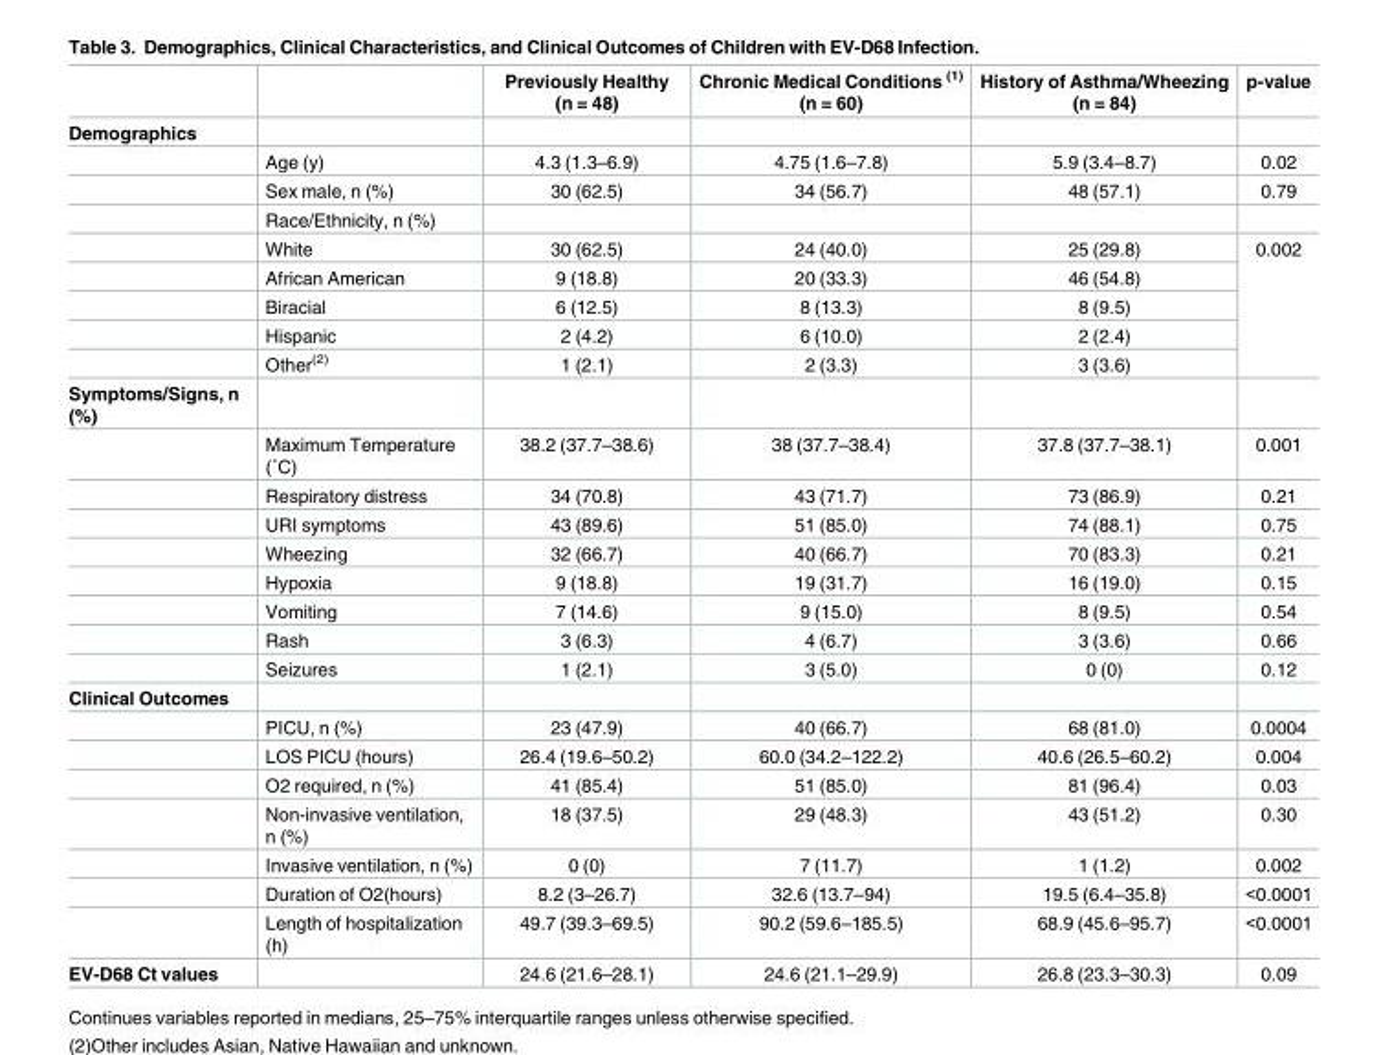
<table><thead><tr><td></td><td></td><td>Previously Healthy (n = 48)</td><td>Chronic Medical Conditions <sup>(1)</sup> (n = 60)</td><td>History of Asthma/Wheezing (n = 84)</td><td>p-value</td></tr></thead><tbody><tr><td colspan="6">Demographics</td></tr><tr><td></td><td>Age (y)</td><td>4.3 (1.3–6.9)</td><td>4.75 (1.6–7.8)</td><td>5.9 (3.4–8.7)</td><td>0.02</td></tr><tr><td></td><td>Sex male, n (%)</td><td>30 (62.5)</td><td>34 (56.7)</td><td>48 (57.1)</td><td>0.79</td></tr><tr><td></td><td>Race/Ethnicity, n (%)</td><td></td><td></td><td></td><td></td></tr><tr><td></td><td>White</td><td>30 (62.5)</td><td>24 (40.0)</td><td>25 (29.8)</td><td rowspan="5">0.002</td></tr><tr><td></td><td>African American</td><td>9 (18.8)</td><td>20 (33.3)</td><td>46 (54.8)</td></tr><tr><td></td><td>Biracial</td><td>6 (12.5)</td><td>8 (13.3)</td><td>8 (9.5)</td></tr><tr><td></td><td>Hispanic</td><td>2 (4.2)</td><td>6 (10.0)</td><td>2 (2.4)</td></tr><tr><td></td><td>Other<sup>(2)</sup></td><td>1 (2.1)</td><td>2 (3.3)</td><td>3 (3.6)</td></tr><tr><td colspan="6">Symptoms/Signs, n (%)</td></tr><tr><td></td><td>Maximum Temperature (˚C)</td><td>38.2 (37.7–38.6)</td><td>38 (37.7–38.4)</td><td>37.8 (37.7–38.1)</td><td>0.001</td></tr><tr><td></td><td>Respiratory distress</td><td>34 (70.8)</td><td>43 (71.7)</td><td>73 (86.9)</td><td>0.21</td></tr><tr><td></td><td>URI symptoms</td><td>43 (89.6)</td><td>51 (85.0)</td><td>74 (88.1)</td><td>0.75</td></tr><tr><td></td><td>Wheezing</td><td>32 (66.7)</td><td>40 (66.7)</td><td>70 (83.3)</td><td>0.21</td></tr><tr><td></td><td>Hypoxia</td><td>9 (18.8)</td><td>19 (31.7)</td><td>16 (19.0)</td><td>0.15</td></tr><tr><td></td><td>Vomiting</td><td>7 (14.6)</td><td>9 (15.0)</td><td>8 (9.5)</td><td>0.54</td></tr><tr><td></td><td>Rash</td><td>3 (6.3)</td><td>4 (6.7)</td><td>3 (3.6)</td><td>0.66</td></tr><tr><td></td><td>Seizures</td><td>1 (2.1)</td><td>3 (5.0)</td><td>0 (0)</td><td>0.12</td></tr><tr><td colspan="6">Clinical Outcomes</td></tr><tr><td></td><td>PICU, n (%)</td><td>23 (47.9)</td><td>40 (66.7)</td><td>68 (81.0)</td><td>0.0004</td></tr><tr><td></td><td>LOS PICU (hours)</td><td>26.4 (19.6–50.2)</td><td>60.0 (34.2–122.2)</td><td>40.6 (26.5–60.2)</td><td>0.004</td></tr><tr><td></td><td>O2 required, n (%)</td><td>41 (85.4)</td><td>51 (85.0)</td><td>81 (96.4)</td><td>0.03</td></tr><tr><td></td><td>Non-invasive ventilation, n (%)</td><td>18 (37.5)</td><td>29 (48.3)</td><td>43 (51.2)</td><td>0.30</td></tr><tr><td></td><td>Invasive ventilation, n (%)</td><td>0 (0)</td><td>7 (11.7)</td><td>1 (1.2)</td><td>0.002</td></tr><tr><td></td><td>Duration of O2(hours)</td><td>8.2 (3–26.7)</td><td>32.6 (13.7–94)</td><td>19.5 (6.4–35.8)</td><td>&lt;0.0001</td></tr><tr><td></td><td>Length of hospitalization (h)</td><td>49.7 (39.3–69.5)</td><td>90.2 (59.6–185.5)</td><td>68.9 (45.6–95.7)</td><td>&lt;0.0001</td></tr><tr><td>EV-D68 Ct values</td><td></td><td>24.6 (21.6–28.1)</td><td>24.6 (21.1–29.9)</td><td>26.8 (23.3–30.3)</td><td>0.09</td></tr></tbody></table>